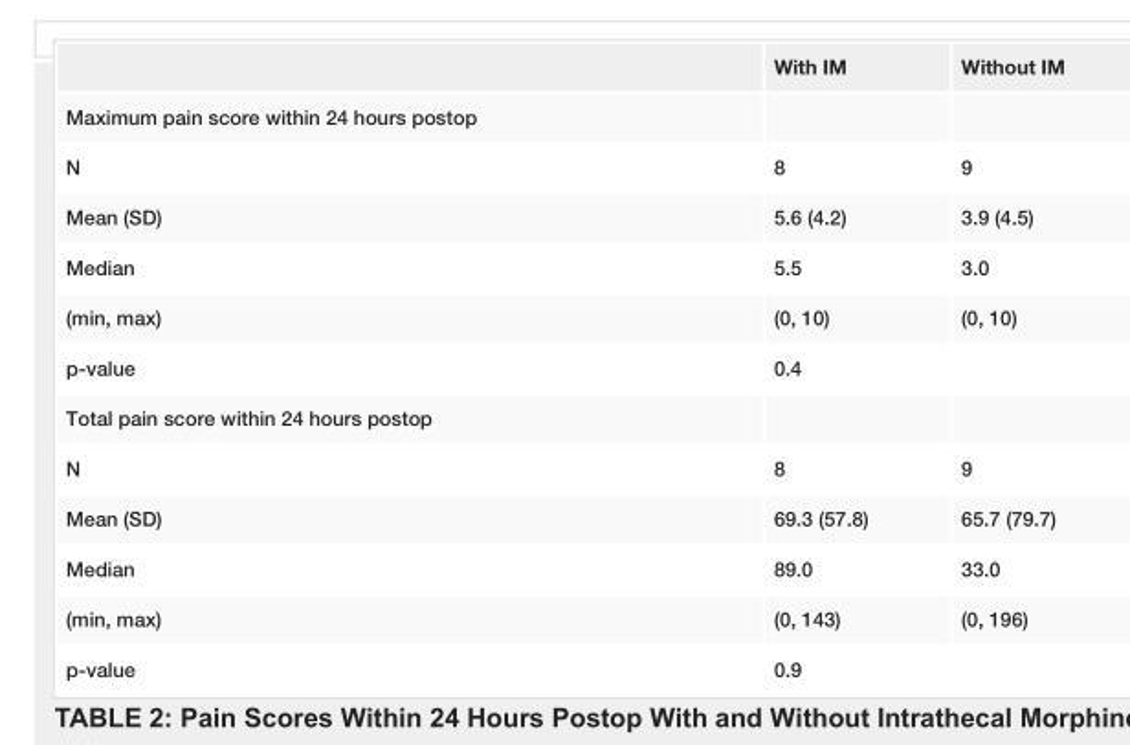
<table><thead><tr><td></td><td>With IM</td><td>Without IM</td></tr></thead><tbody><tr><td colspan="3">Maximum pain score within 24 hours postop</td></tr><tr><td>N</td><td>8</td><td>9</td></tr><tr><td>Mean (SD)</td><td>5.6 (4.2)</td><td>3.9 (4.5)</td></tr><tr><td>Median</td><td>5.5</td><td>3.0</td></tr><tr><td>(min, max)</td><td>(0, 10)</td><td>(0, 10)</td></tr><tr><td>p-value</td><td>0.4</td><td></td></tr><tr><td colspan="3">Total pain score within 24 hours postop</td></tr><tr><td>N</td><td>8</td><td>9</td></tr><tr><td>Mean (SD)</td><td>69.3 (57.8)</td><td>65.7 (79.7)</td></tr><tr><td>Median</td><td>89.0</td><td>33.0</td></tr><tr><td>(min, max)</td><td>(0, 143)</td><td>(0, 196)</td></tr><tr><td>p-value</td><td>0.9</td><td></td></tr></tbody></table>